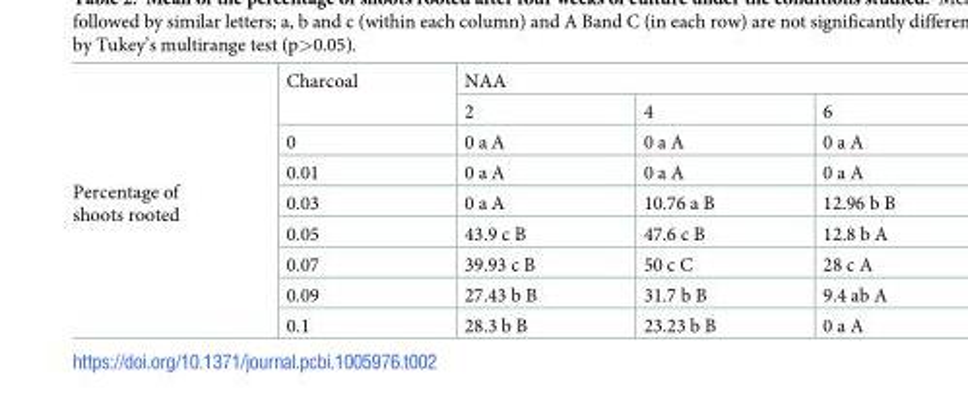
<table><tbody><tr><td rowspan="9">Percentage of shoots rooted</td><td rowspan="2">Charcoal</td><td colspan="3">NAA</td></tr><tr><td>2</td><td>4</td><td>6</td></tr><tr><td>0</td><td>0 a A</td><td>0 a A</td><td>0 a A</td></tr><tr><td>0.01</td><td>0 a A</td><td>0 a A</td><td>0 a A</td></tr><tr><td>0.03</td><td>0 a A</td><td>10.76 a B</td><td>12.96 b B</td></tr><tr><td>0.05</td><td>43.9 c B</td><td>47.6 c B</td><td>12.8 b A</td></tr><tr><td>0.07</td><td>39.93 c B</td><td>50 c C</td><td>28 c A</td></tr><tr><td>0.09</td><td>27.43 b B</td><td>31.7 b B</td><td>9.4 ab A</td></tr><tr><td>0.1</td><td>28.3 b B</td><td>23.23 b B</td><td>0 a A</td></tr></tbody></table>